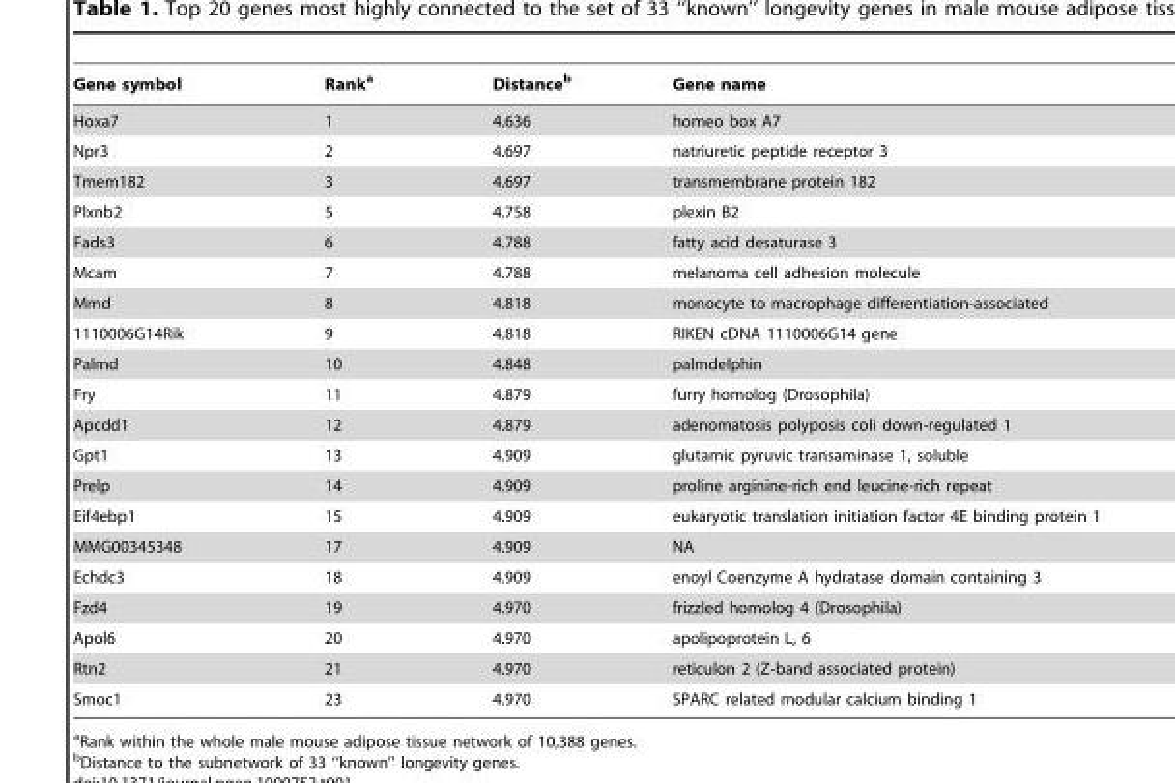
<table><thead><tr><td>Gene symbol</td><td>Rank<sup>a</sup></td><td>Distance<sup>b</sup></td><td>Gene name</td></tr></thead><tbody><tr><td>Hoxa7</td><td>1</td><td>4.636</td><td>homeo box A7</td></tr><tr><td>Npr3</td><td>2</td><td>4.697</td><td>natriuretic peptide receptor 3</td></tr><tr><td>Tmem182</td><td>3</td><td>4.697</td><td>transmembrane protein 182</td></tr><tr><td>Plxnb2</td><td>5</td><td>4.758</td><td>plexin B2</td></tr><tr><td>Fads3</td><td>6</td><td>4.788</td><td>fatty acid desaturase 3</td></tr><tr><td>Mcam</td><td>7</td><td>4.788</td><td>melanoma cell adhesion molecule</td></tr><tr><td>Mmd</td><td>8</td><td>4.818</td><td>monocyte to macrophage differentiation-associated</td></tr><tr><td>1110006G14Rik</td><td>9</td><td>4.818</td><td>RIKEN cDNA 1110006G14 gene</td></tr><tr><td>Palmd</td><td>10</td><td>4.848</td><td>palmdelphin</td></tr><tr><td>Fry</td><td>11</td><td>4.879</td><td>furry homolog (Drosophila)</td></tr><tr><td>Apcdd1</td><td>12</td><td>4.879</td><td>adenomatosis polyposis coli down-regulated 1</td></tr><tr><td>Gpt1</td><td>13</td><td>4.909</td><td>glutamic pyruvic transaminase 1, soluble</td></tr><tr><td>Prelp</td><td>14</td><td>4.909</td><td>proline arginine-rich end leucine-rich repeat</td></tr><tr><td>Eif4ebp1</td><td>15</td><td>4.909</td><td>eukaryotic translation initiation factor 4E binding protein 1</td></tr><tr><td>MMG00345348</td><td>17</td><td>4.909</td><td>NA</td></tr><tr><td>Echdc3</td><td>18</td><td>4.909</td><td>enoyl Coenzyme A hydratase domain containing 3</td></tr><tr><td>Fzd4</td><td>19</td><td>4.970</td><td>frizzled homolog 4 (Drosophila)</td></tr><tr><td>Apol6</td><td>20</td><td>4.970</td><td>apolipoprotein L, 6</td></tr><tr><td>Rtn2</td><td>21</td><td>4.970</td><td>reticulon 2 (Z-band associated protein)</td></tr><tr><td>Smoc1</td><td>23</td><td>4.970</td><td>SPARC related modular calcium binding 1</td></tr></tbody></table>